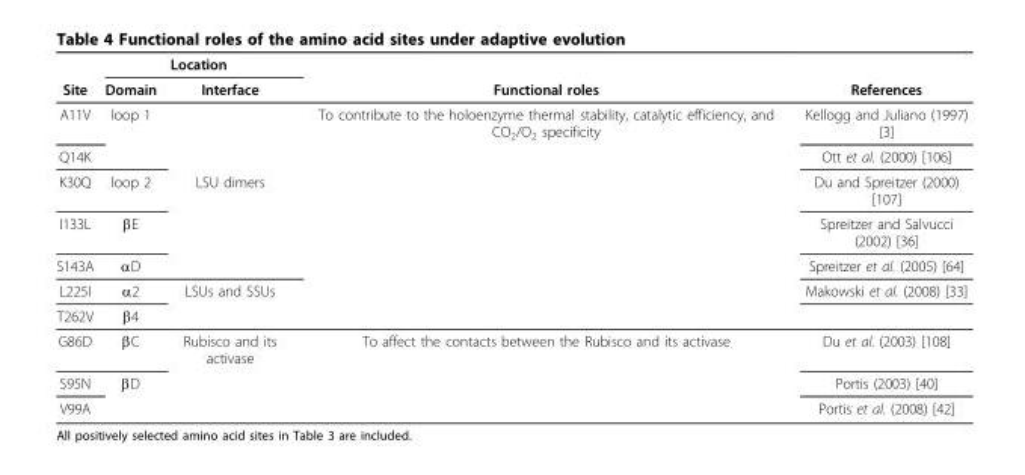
<table><thead><tr><td rowspan="2">Site</td><td colspan="2">Location</td><td rowspan="2">Functional roles</td><td rowspan="2">References</td></tr><tr><td>Domain</td><td>Interface</td></tr></thead><tbody><tr><td>A11V</td><td>loop 1</td><td></td><td>To contribute to the holoenzyme thermal stability, catalytic efficiency, and CO<sub>2</sub>/O<sub>2</sub> specificity</td><td>Kellogg and Juliano (1997) [3]</td></tr><tr><td>Q14K</td><td></td><td></td><td></td><td>Ott et al. (2000) [106]</td></tr><tr><td>K30Q</td><td>loop 2</td><td>LSU dimers</td><td></td><td>Du and Spreitzer (2000) [107]</td></tr><tr><td>I133L</td><td>βE</td><td></td><td></td><td>Spreitzer and Salvucci (2002) [36]</td></tr><tr><td>S143A</td><td>αD</td><td></td><td></td><td>Spreitzer et al. (2005) [64]</td></tr><tr><td>L225I</td><td>α2</td><td>LSUs and SSUs</td><td></td><td>Makowski et al. (2008) [33]</td></tr><tr><td>T262V</td><td>β4</td><td></td><td></td><td></td></tr><tr><td>G86D</td><td>βC</td><td>Rubisco and its activase</td><td>To affect the contacts between the Rubisco and its activase</td><td>Du et al. (2003) [108]</td></tr><tr><td>S95N</td><td>βD</td><td></td><td></td><td>Portis (2003) [40]</td></tr><tr><td>V99A</td><td></td><td></td><td></td><td>Portis et al. (2008) [42]</td></tr></tbody></table>